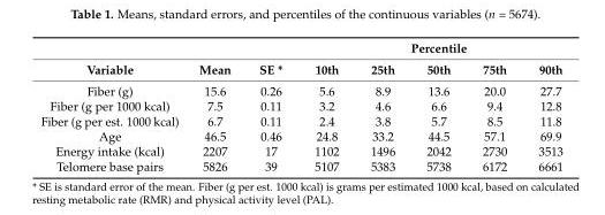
<table><thead><tr><td rowspan="2">Variable</td><td rowspan="2">Mean</td><td rowspan="2">SE *</td><td colspan="5">Percentile</td></tr><tr><td>10th</td><td>25th</td><td>50th</td><td>75th</td><td>90th</td></tr></thead><tbody><tr><td>Fiber (g)</td><td>15.6</td><td>0.26</td><td>5.6</td><td>8.9</td><td>13.6</td><td>20.0</td><td>27.7</td></tr><tr><td>Fiber (g per 1000 kcal)</td><td>7.5</td><td>0.11</td><td>3.2</td><td>4.6</td><td>6.6</td><td>9.4</td><td>12.8</td></tr><tr><td>Fiber (g per est. 1000 kcal)</td><td>6.7</td><td>0.11</td><td>2.4</td><td>3.8</td><td>5.7</td><td>8.5</td><td>11.8</td></tr><tr><td>Age</td><td>46.5</td><td>0.46</td><td>24.8</td><td>33.2</td><td>44.5</td><td>57.1</td><td>69.9</td></tr><tr><td>Energy intake (kcal)</td><td>2207</td><td>17</td><td>1102</td><td>1496</td><td>2042</td><td>2730</td><td>3513</td></tr><tr><td>Telomere base pairs</td><td>5826</td><td>39</td><td>5107</td><td>5383</td><td>5738</td><td>6172</td><td>6661</td></tr></tbody></table>